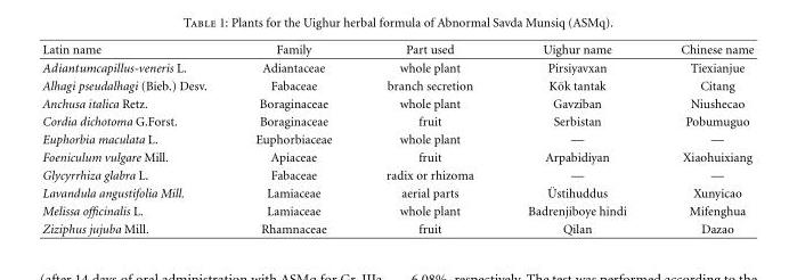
<table><thead><tr><td>Latin name</td><td>Family</td><td>Part used</td><td>Uighur name</td><td>Chinese name</td></tr></thead><tbody><tr><td>Adiantumcapillus-veneris L.</td><td>Adiantaceae</td><td>whole plant</td><td>Pirsiyavxan</td><td>Tiexianjue</td></tr><tr><td>Alhagi pseudalhagi (Bieb.) Desv.</td><td>Fabaceae</td><td>branch secretion</td><td>K¨ok tantak</td><td>Citang</td></tr><tr><td>Anchusa italica Retz.</td><td>Boraginaceae</td><td>whole plant</td><td>Gavziban</td><td>Niushecao</td></tr><tr><td>Cordia dichotoma G.Forst.</td><td>Boraginaceae</td><td>fruit</td><td>Serbistan</td><td>Pobumuguo</td></tr><tr><td>Euphorbia maculata L.</td><td>Euphorbiaceae</td><td>whole plant</td><td>—</td><td>—</td></tr><tr><td>Foeniculum vulgare Mill.</td><td>Apiaceae</td><td>fruit</td><td>Arpabidiyan</td><td>Xiaohuixiang</td></tr><tr><td>Glycyrrhiza glabra L.</td><td>Fabaceae</td><td>radix or rhizoma</td><td>—</td><td>—</td></tr><tr><td>Lavandula angustifolia Mill.</td><td>Lamiaceae</td><td>aerial parts</td><td>¨Ustihuddus</td><td>Xunyicao</td></tr><tr><td>Melissa officinalis L.</td><td>Lamiaceae</td><td>whole plant</td><td>Badrenjiboye hindi</td><td>Mifenghua</td></tr><tr><td>Ziziphus jujuba Mill.</td><td>Rhamnaceae</td><td>fruit</td><td>Qilan</td><td>Dazao</td></tr></tbody></table>